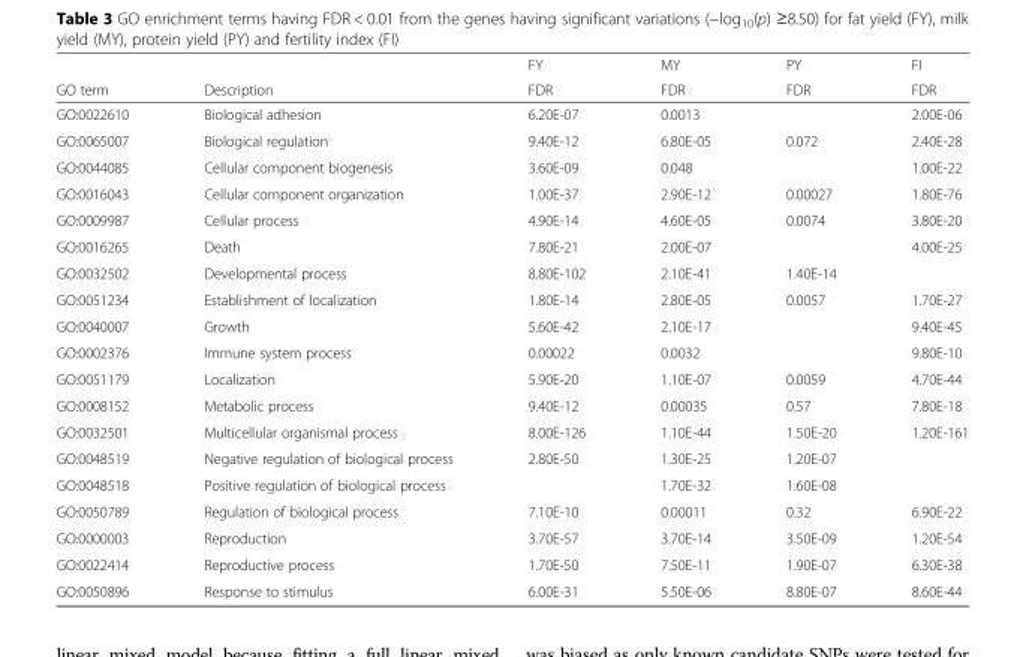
<table><thead><tr><td rowspan="2">GO term</td><td rowspan="2">Description</td><td rowspan="2">FY FDR</td><td rowspan="2">MY FDR</td><td rowspan="2">PY FDR</td><td rowspan="2">FI FDR</td></tr><tr></tr></thead><tbody><tr><td>GO:0022610</td><td>Biological adhesion</td><td>6.20E-07</td><td>0.0013</td><td></td><td>2.00E-06</td></tr><tr><td>GO:0065007</td><td>Biological regulation</td><td>9.40E-12</td><td>6.80E-05</td><td>0.072</td><td>2.40E-28</td></tr><tr><td>GO:0044085</td><td>Cellular component biogenesis</td><td>3.60E-09</td><td>0.048</td><td></td><td>1.00E-22</td></tr><tr><td>GO:0016043</td><td>Cellular component organization</td><td>1.00E-37</td><td>2.90E-12</td><td>0.00027</td><td>1.80E-76</td></tr><tr><td>GO:0009987</td><td>Cellular process</td><td>4.90E-14</td><td>4.60E-05</td><td>0.0074</td><td>3.80E-20</td></tr><tr><td>GO:0016265</td><td>Death</td><td>7.80E-21</td><td>2.00E-07</td><td></td><td>4.00E-25</td></tr><tr><td>GO:0032502</td><td>Developmental process</td><td>8.80E-102</td><td>2.10E-41</td><td>1.40E-14</td><td></td></tr><tr><td>GO:0051234</td><td>Establishment of localization</td><td>1.80E-14</td><td>2.80E-05</td><td>0.0057</td><td>1.70E-27</td></tr><tr><td>GO:0040007</td><td>Growth</td><td>5.60E-42</td><td>2.10E-17</td><td></td><td>9.40E-45</td></tr><tr><td>GO:0002376</td><td>Immune system process</td><td>0.00022</td><td>0.0032</td><td></td><td>9.80E-10</td></tr><tr><td>GO:0051179</td><td>Localization</td><td>5.90E-20</td><td>1.10E-07</td><td>0.0059</td><td>4.70E-44</td></tr><tr><td>GO:0008152</td><td>Metabolic process</td><td>9.40E-12</td><td>0.00035</td><td>0.57</td><td>7.80E-18</td></tr><tr><td>GO:0032501</td><td>Multicellular organismal process</td><td>8.00E-126</td><td>1.10E-44</td><td>1.50E-20</td><td>1.20E-161</td></tr><tr><td>GO:0048519</td><td>Negative regulation of biological process</td><td>2.80E-50</td><td>1.30E-25</td><td>1.20E-07</td><td></td></tr><tr><td>GO:0048518</td><td>Positive regulation of biological process</td><td></td><td>1.70E-32</td><td>1.60E-08</td><td></td></tr><tr><td>GO:0050789</td><td>Regulation of biological process</td><td>7.10E-10</td><td>0.00011</td><td>0.32</td><td>6.90E-22</td></tr><tr><td>GO:0000003</td><td>Reproduction</td><td>3.70E-57</td><td>3.70E-14</td><td>3.50E-09</td><td>1.20E-54</td></tr><tr><td>GO:0022414</td><td>Reproductive process</td><td>1.70E-50</td><td>7.50E-11</td><td>1.90E-07</td><td>6.30E-38</td></tr><tr><td>GO:0050896</td><td>Response to stimulus</td><td>6.00E-31</td><td>5.50E-06</td><td>8.80E-07</td><td>8.60E-44</td></tr></tbody></table>